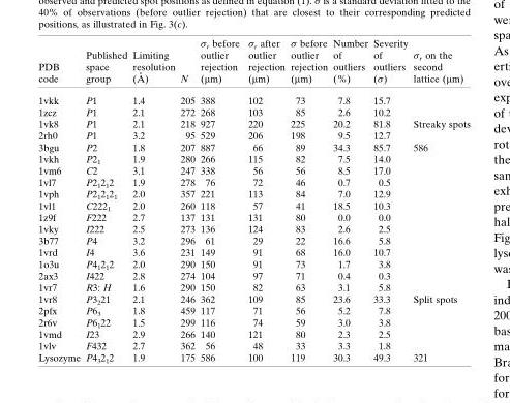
<table><thead><tr><td>PDB code</td><td>Published space group</td><td>Limiting resolution (A˚ )</td><td>N</td><td>σ<sub>r</sub> before outlier rejection (µm)</td><td>σ<sub>r</sub> after outlier rejection (µm)</td><td>σ before outlier rejection (µm)</td><td>Number of outliers (%)</td><td>Severity of outliers (σ)</td><td>σ<sub>r</sub> on the second lattice (µm)</td></tr></thead><tbody><tr><td>1vkk</td><td>P1</td><td>1.4</td><td>205</td><td>388</td><td>102</td><td>73</td><td>7.8</td><td>15.7</td><td></td></tr><tr><td>1zcz</td><td>P1</td><td>2.1</td><td>272</td><td>268</td><td>103</td><td>85</td><td>2.6</td><td>10.2</td><td></td></tr><tr><td>1vk8</td><td>P1</td><td>2.1</td><td>218</td><td>927</td><td>220</td><td>225</td><td>20.2</td><td>81.8</td><td>Streaky spots</td></tr><tr><td>2rh0</td><td>P1</td><td>3.2</td><td>95</td><td>529</td><td>206</td><td>198</td><td>9.5</td><td>12.7</td><td></td></tr><tr><td>3bgu</td><td>P2</td><td>1.8</td><td>207</td><td>887</td><td>66</td><td>89</td><td>34.3</td><td>85.7</td><td>586</td></tr><tr><td>1vkh</td><td>P2<sub>1</sub></td><td>1.9</td><td>280</td><td>266</td><td>115</td><td>82</td><td>7.5</td><td>14.0</td><td></td></tr><tr><td>1vm6</td><td>C2</td><td>3.1</td><td>247</td><td>338</td><td>56</td><td>56</td><td>8.5</td><td>17.0</td><td></td></tr><tr><td>1vl7</td><td>P2<sub>1</sub>2<sub>1</sub>2</td><td>1.9</td><td>278</td><td>76</td><td>72</td><td>46</td><td>0.7</td><td>0.5</td><td></td></tr><tr><td>1vph</td><td>P2<sub>1</sub>2<sub>1</sub>2<sub>1</sub></td><td>2.0</td><td>357</td><td>221</td><td>113</td><td>84</td><td>7.0</td><td>12.9</td><td></td></tr><tr><td>1vl1</td><td>C222<sub>1</sub></td><td>2.0</td><td>260</td><td>118</td><td>57</td><td>41</td><td>18.5</td><td>10.3</td><td></td></tr><tr><td>1z9f</td><td>F222</td><td>2.7</td><td>137</td><td>131</td><td>131</td><td>80</td><td>0.0</td><td>0.0</td><td></td></tr><tr><td>1vky</td><td>I222</td><td>2.5</td><td>273</td><td>136</td><td>124</td><td>83</td><td>2.6</td><td>2.5</td><td></td></tr><tr><td>3b77</td><td>P4</td><td>3.2</td><td>296</td><td>61</td><td>29</td><td>22</td><td>16.6</td><td>5.8</td><td></td></tr><tr><td>1vrd</td><td>I4</td><td>3.6</td><td>231</td><td>149</td><td>91</td><td>68</td><td>16.0</td><td>10.7</td><td></td></tr><tr><td>1o3u</td><td>P4<sub>1</sub>2<sub>1</sub>2</td><td>2.0</td><td>290</td><td>150</td><td>91</td><td>73</td><td>1.7</td><td>3.8</td><td></td></tr><tr><td>2ax3</td><td>I422</td><td>2.8</td><td>274</td><td>104</td><td>97</td><td>71</td><td>0.4</td><td>0.3</td><td></td></tr><tr><td>1vr7</td><td>R3: H</td><td>1.6</td><td>290</td><td>150</td><td>82</td><td>63</td><td>3.1</td><td>5.8</td><td></td></tr><tr><td>1vr8</td><td>P3<sub>2</sub>21</td><td>2.1</td><td>246</td><td>362</td><td>109</td><td>85</td><td>23.6</td><td>33.3</td><td>Split spots</td></tr><tr><td>2pfx</td><td>P6<sub>3</sub></td><td>1.8</td><td>459</td><td>117</td><td>71</td><td>56</td><td>5.2</td><td>7.8</td><td></td></tr><tr><td>2r6v</td><td>P6<sub>1</sub>22</td><td>1.5</td><td>299</td><td>116</td><td>74</td><td>59</td><td>3.0</td><td>3.8</td><td></td></tr><tr><td>1vmd</td><td>I23</td><td>2.9</td><td>266</td><td>140</td><td>121</td><td>80</td><td>2.3</td><td>2.5</td><td></td></tr><tr><td>1vlv</td><td>F432</td><td>2.7</td><td>362</td><td>56</td><td>48</td><td>33</td><td>3.3</td><td>1.8</td><td></td></tr><tr><td>Lysozyme</td><td>P4<sub>3</sub>2<sub>1</sub>2</td><td>1.9</td><td>175</td><td>586</td><td>100</td><td>119</td><td>30.3</td><td>49.3</td><td>321</td></tr></tbody></table>